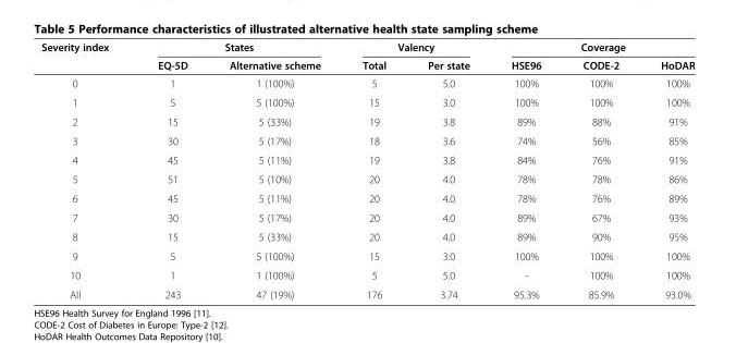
<table><thead><tr><td rowspan="2">Severity index</td><td colspan="2">States</td><td colspan="2">Valency</td><td colspan="3">Coverage</td></tr><tr><td>EQ-5D</td><td>Alternative scheme</td><td>Total</td><td>Per state</td><td>HSE96</td><td>CODE-2</td><td>HoDAR</td></tr></thead><tbody><tr><td>0</td><td>1</td><td>1 (100%)</td><td>5</td><td>5.0</td><td>100%</td><td>100%</td><td>100%</td></tr><tr><td>1</td><td>5</td><td>5 (100%)</td><td>15</td><td>3.0</td><td>100%</td><td>100%</td><td>100%</td></tr><tr><td>2</td><td>15</td><td>5 (33%)</td><td>19</td><td>3.8</td><td>89%</td><td>88%</td><td>91%</td></tr><tr><td>3</td><td>30</td><td>5 (17%)</td><td>18</td><td>3.6</td><td>74%</td><td>56%</td><td>85%</td></tr><tr><td>4</td><td>45</td><td>5 (11%)</td><td>19</td><td>3.8</td><td>84%</td><td>76%</td><td>91%</td></tr><tr><td>5</td><td>51</td><td>5 (10%)</td><td>20</td><td>4.0</td><td>78%</td><td>78%</td><td>86%</td></tr><tr><td>6</td><td>45</td><td>5 (11%)</td><td>20</td><td>4.0</td><td>78%</td><td>76%</td><td>89%</td></tr><tr><td>7</td><td>30</td><td>5 (17%)</td><td>20</td><td>4.0</td><td>89%</td><td>67%</td><td>93%</td></tr><tr><td>8</td><td>15</td><td>5 (33%)</td><td>20</td><td>4.0</td><td>89%</td><td>90%</td><td>95%</td></tr><tr><td>9</td><td>5</td><td>5 (100%)</td><td>15</td><td>3.0</td><td>100%</td><td>100%</td><td>100%</td></tr><tr><td>10</td><td>1</td><td>1 (100%)</td><td>5</td><td>5.0</td><td>-</td><td>100%</td><td>100%</td></tr><tr><td>All</td><td>243</td><td>47 (19%)</td><td>176</td><td>3.74</td><td>95.3%</td><td>85.9%</td><td>93.0%</td></tr></tbody></table>